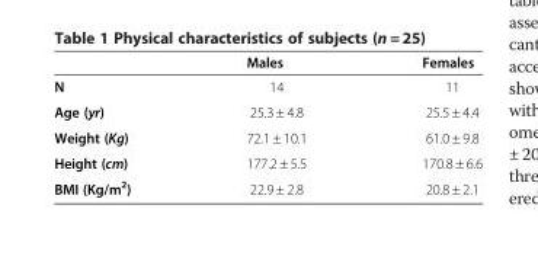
<table><thead><tr><td></td><td>Males</td><td>Females</td></tr></thead><tbody><tr><td>N</td><td>14</td><td>11</td></tr><tr><td>Age (yr)</td><td>25.3 ± 4.8</td><td>25.5 ± 4.4</td></tr><tr><td>Weight (Kg)</td><td>72.1 ± 10.1</td><td>61.0 ± 9.8</td></tr><tr><td>Height (cm)</td><td>177.2 ± 5.5</td><td>170.8 ± 6.6</td></tr><tr><td>BMI (Kg/m<sup>2</sup>)</td><td>22.9 ± 2.8</td><td>20.8 ± 2.1</td></tr></tbody></table>